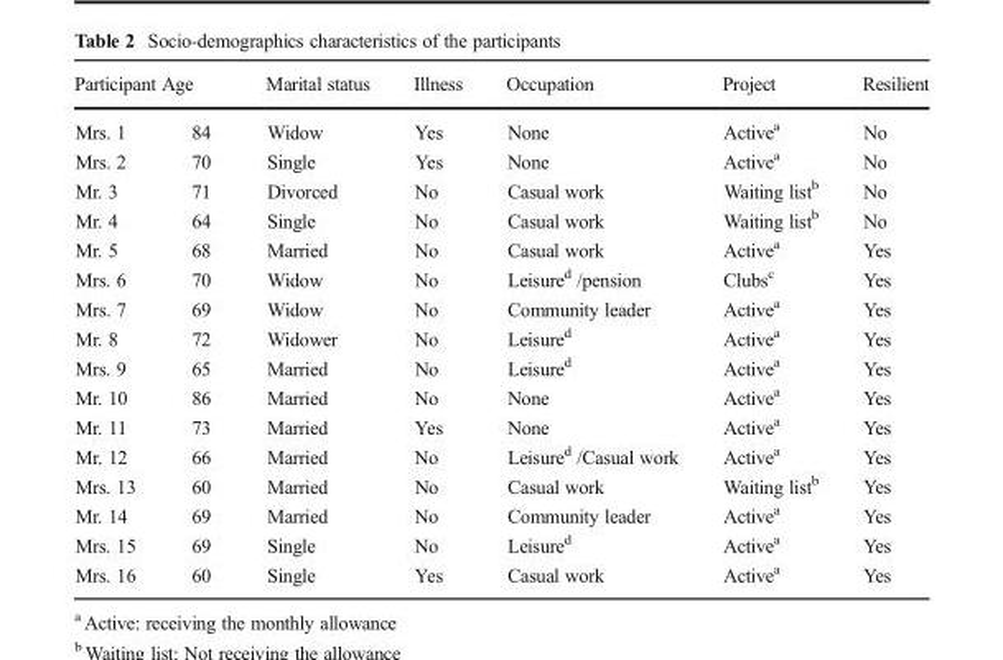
<table><thead><tr><td colspan="2">Participant Age</td><td rowspan="2">Marital status Widow</td><td rowspan="2">Illness Yes</td><td rowspan="2">Occupation None</td><td rowspan="2">Project Active<sup>a</sup></td><td rowspan="2">Resilient No</td></tr><tr><td>Mrs. 1</td><td>84</td></tr></thead><tbody><tr><td>Mrs. 2</td><td>70</td><td>Single</td><td>Yes</td><td>None</td><td>Active<sup>a</sup></td><td>No</td></tr><tr><td>Mr. 3</td><td>71</td><td>Divorced</td><td>No</td><td>Casual work</td><td>Waiting list<sup>b</sup></td><td>No</td></tr><tr><td>Mr. 4</td><td>64</td><td>Single</td><td>No</td><td>Casual work</td><td>Waiting list<sup>b</sup></td><td>No</td></tr><tr><td>Mr. 5</td><td>68</td><td>Married</td><td>No</td><td>Casual work</td><td>Active<sup>a</sup></td><td>Yes</td></tr><tr><td>Mrs. 6</td><td>70</td><td>Widow</td><td>No</td><td>Leisure<sup>d</sup> /pension</td><td>Clubs<sup>c</sup></td><td>Yes</td></tr><tr><td>Mrs. 7</td><td>69</td><td>Widow</td><td>No</td><td>Community leader</td><td>Active<sup>a</sup></td><td>Yes</td></tr><tr><td>Mr. 8</td><td>72</td><td>Widower</td><td>No</td><td>Leisure<sup>d</sup></td><td>Active<sup>a</sup></td><td>Yes</td></tr><tr><td>Mrs. 9</td><td>65</td><td>Married</td><td>No</td><td>Leisure<sup>d</sup></td><td>Active<sup>a</sup></td><td>Yes</td></tr><tr><td>Mr. 10</td><td>86</td><td>Married</td><td>No</td><td>None</td><td>Active<sup>a</sup></td><td>Yes</td></tr><tr><td>Mr. 11</td><td>73</td><td>Married</td><td>Yes</td><td>None</td><td>Active<sup>a</sup></td><td>Yes</td></tr><tr><td>Mr. 12</td><td>66</td><td>Married</td><td>No</td><td>Leisure<sup>d</sup> /Casual work</td><td>Active<sup>a</sup></td><td>Yes</td></tr><tr><td>Mrs. 13</td><td>60</td><td>Married</td><td>No</td><td>Casual work</td><td>Waiting list<sup>b</sup></td><td>Yes</td></tr><tr><td>Mr. 14</td><td>69</td><td>Married</td><td>No</td><td>Community leader</td><td>Active<sup>a</sup></td><td>Yes</td></tr><tr><td>Mrs. 15</td><td>69</td><td>Single</td><td>No</td><td>Leisure<sup>d</sup></td><td>Active<sup>a</sup></td><td>Yes</td></tr><tr><td>Mrs. 16</td><td>60</td><td>Single</td><td>Yes</td><td>Casual work</td><td>Active<sup>a</sup></td><td>Yes</td></tr></tbody></table>